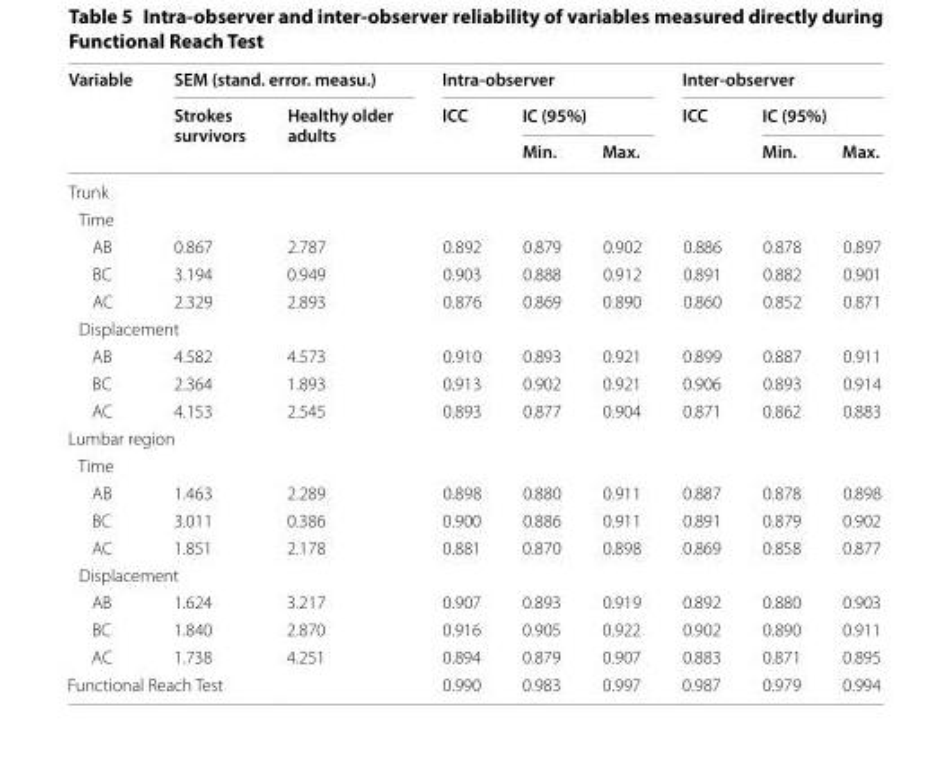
<table><thead><tr><td rowspan="3">Variable</td><td colspan="2">SEM (stand. error. measu.)</td><td colspan="3">Intra-observer</td><td colspan="3">Inter-observer</td></tr><tr><td rowspan="2">Strokes survivors</td><td rowspan="2">Healthy older adults</td><td rowspan="2">ICC</td><td colspan="2">IC (95%)</td><td rowspan="2">ICC</td><td colspan="2">IC (95%)</td></tr><tr><td>Min.</td><td>Max.</td><td>Min.</td><td>Max.</td></tr></thead><tbody><tr><td colspan="9">Trunk</td></tr><tr><td colspan="9">Time</td></tr><tr><td>AB</td><td>0.867</td><td>2.787</td><td>0.892</td><td>0.879</td><td>0.902</td><td>0.886</td><td>0.878</td><td>0.897</td></tr><tr><td>BC</td><td>3.194</td><td>0.949</td><td>0.903</td><td>0.888</td><td>0.912</td><td>0.891</td><td>0.882</td><td>0.901</td></tr><tr><td>AC</td><td>2.329</td><td>2.893</td><td>0.876</td><td>0.869</td><td>0.890</td><td>0.860</td><td>0.852</td><td>0.871</td></tr><tr><td colspan="9">Displacement</td></tr><tr><td>AB</td><td>4.582</td><td>4.573</td><td>0.910</td><td>0.893</td><td>0.921</td><td>0.899</td><td>0.887</td><td>0.911</td></tr><tr><td>BC</td><td>2.364</td><td>1.893</td><td>0.913</td><td>0.902</td><td>0.921</td><td>0.906</td><td>0.893</td><td>0.914</td></tr><tr><td>AC</td><td>4.153</td><td>2.545</td><td>0.893</td><td>0.877</td><td>0.904</td><td>0.871</td><td>0.862</td><td>0.883</td></tr><tr><td colspan="9">Lumbar region</td></tr><tr><td colspan="9">Time</td></tr><tr><td>AB</td><td>1.463</td><td>2.289</td><td>0.898</td><td>0.880</td><td>0.911</td><td>0.887</td><td>0.878</td><td>0.898</td></tr><tr><td>BC</td><td>3.011</td><td>0.386</td><td>0.900</td><td>0.886</td><td>0.911</td><td>0.891</td><td>0.879</td><td>0.902</td></tr><tr><td>AC</td><td>1.851</td><td>2.178</td><td>0.881</td><td>0.870</td><td>0.898</td><td>0.869</td><td>0.858</td><td>0.877</td></tr><tr><td colspan="9">Displacement</td></tr><tr><td>AB</td><td>1.624</td><td>3.217</td><td>0.907</td><td>0.893</td><td>0.919</td><td>0.892</td><td>0.880</td><td>0.903</td></tr><tr><td>BC</td><td>1.840</td><td>2.870</td><td>0.916</td><td>0.905</td><td>0.922</td><td>0.902</td><td>0.890</td><td>0.911</td></tr><tr><td>AC</td><td>1.738</td><td>4.251</td><td>0.894</td><td>0.879</td><td>0.907</td><td>0.883</td><td>0.871</td><td>0.895</td></tr><tr><td colspan="3">Functional Reach Test</td><td>0.990</td><td>0.983</td><td>0.997</td><td>0.987</td><td>0.979</td><td>0.994</td></tr></tbody></table>